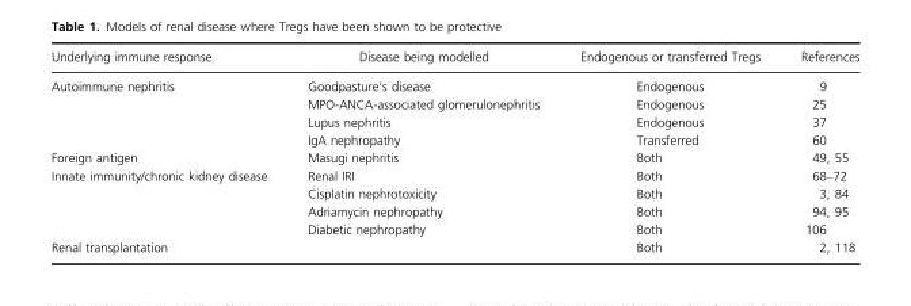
<table><thead><tr><td>Underlying immune response</td><td>Disease being modelled</td><td>Endogenous or transferred Tregs</td><td>References</td></tr></thead><tbody><tr><td rowspan="4">Autoimmune nephritis</td><td>Goodpasture’s disease</td><td>Endogenous</td><td>9</td></tr><tr><td>MPO-ANCA-associated glomerulonephritis</td><td>Endogenous</td><td>25</td></tr><tr><td>Lupus nephritis</td><td>Endogenous</td><td>37</td></tr><tr><td>IgA nephropathy</td><td>Transferred</td><td>60</td></tr><tr><td>Foreign antigen</td><td>Masugi nephritis</td><td>Both</td><td>49, 55</td></tr><tr><td rowspan="4">Innate immunity/chronic kidney disease</td><td>Renal IRI</td><td>Both</td><td>68–72</td></tr><tr><td>Cisplatin nephrotoxicity</td><td>Both</td><td>3, 84</td></tr><tr><td>Adriamycin nephropathy</td><td>Both</td><td>94, 95</td></tr><tr><td>Diabetic nephropathy</td><td>Both</td><td>106</td></tr><tr><td>Renal transplantation</td><td></td><td>Both</td><td>2, 118</td></tr></tbody></table>